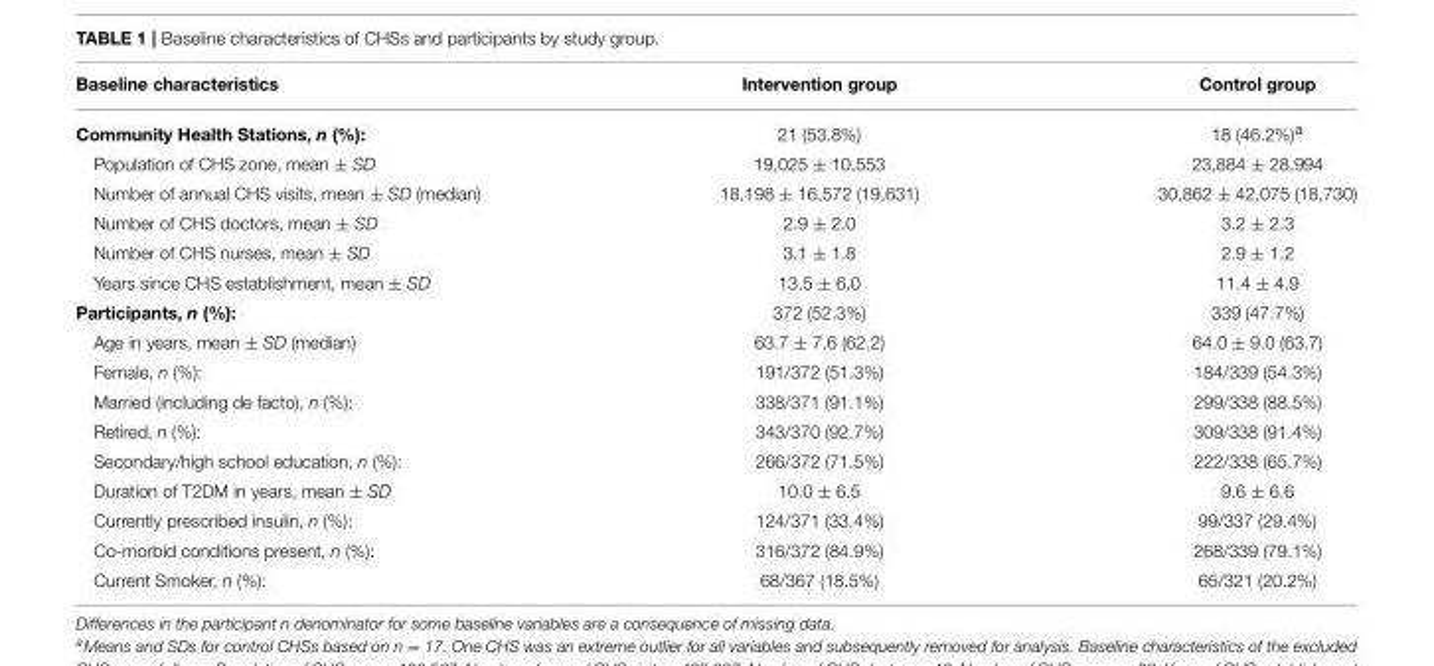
<table><thead><tr><td>Baseline characteristics</td><td>Intervention group</td><td>Control group</td></tr></thead><tbody><tr><td>Community Health Stations, n (%):</td><td>21 (53.8%)</td><td>18 (46.2%)<sup>a</sup></td></tr><tr><td>Population of CHS zone, mean ± SD</td><td>19,025 ± 10,553</td><td>23,884 ± 28,994</td></tr><tr><td>Number of annual CHS visits, mean ± SD (median)</td><td>18,198 ± 16,572 (19,631)</td><td>30,862 ± 42,075 (18,730)</td></tr><tr><td>Number of CHS doctors, mean ± SD</td><td>2.9 ± 2.0</td><td>3.2 ± 2.3</td></tr><tr><td>Number of CHS nurses, mean ± SD</td><td>3.1 ± 1.8</td><td>2.9 ± 1.2</td></tr><tr><td>Years since CHS establishment, mean ± SD</td><td>13.5 ± 6.0</td><td>11.4 ± 4.9</td></tr><tr><td>Participants, n (%):</td><td>372 (52.3%)</td><td>339 (47.7%)</td></tr><tr><td>Age in years, mean ± SD (median)</td><td>63.7 ± 7.6 (62.2)</td><td>64.0 ± 9.0 (63.7)</td></tr><tr><td>Female, n (%):</td><td>191/372 (51.3%)</td><td>184/339 (54.3%)</td></tr><tr><td>Married (including de facto), n (%):</td><td>338/371 (91.1%)</td><td>299/338 (88.5%)</td></tr><tr><td>Retired, n (%):</td><td>343/370 (92.7%)</td><td>309/338 (91.4%)</td></tr><tr><td>Secondary/high school education, n (%):</td><td>266/372 (71.5%)</td><td>222/338 (65.7%)</td></tr><tr><td>Duration of T2DM in years, mean ± SD</td><td>10.0 ± 6.5</td><td>9.6 ± 6.6</td></tr><tr><td>Currently prescribed insulin, n (%):</td><td>124/371 (33.4%)</td><td>99/337 (29.4%)</td></tr><tr><td>Co-morbid conditions present, n (%):</td><td>316/372 (84.9%)</td><td>268/339 (79.1%)</td></tr><tr><td>Current Smoker, n (%):</td><td>68/367 (18.5%)</td><td>65/321 (20.2%)</td></tr></tbody></table>